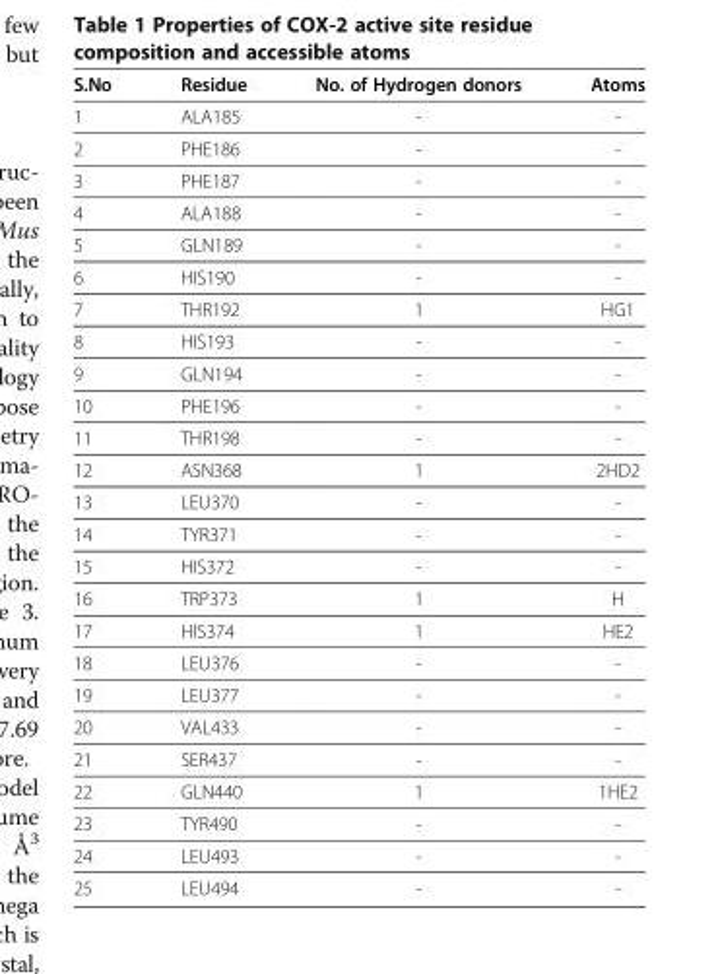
<table><thead><tr><td>S.No</td><td>Residue</td><td>No. of Hydrogen donors</td><td>Atoms</td></tr></thead><tbody><tr><td>1</td><td>ALA185</td><td>-</td><td>-</td></tr><tr><td>2</td><td>PHE186</td><td>-</td><td>-</td></tr><tr><td>3</td><td>PHE187</td><td>-</td><td>-</td></tr><tr><td>4</td><td>ALA188</td><td>-</td><td>-</td></tr><tr><td>5</td><td>GLN189</td><td>-</td><td>-</td></tr><tr><td>6</td><td>HIS190</td><td>-</td><td>-</td></tr><tr><td>7</td><td>THR192</td><td>1</td><td>HG1</td></tr><tr><td>8</td><td>HIS193</td><td>-</td><td>-</td></tr><tr><td>9</td><td>GLN194</td><td>-</td><td>-</td></tr><tr><td>10</td><td>PHE196</td><td>-</td><td>-</td></tr><tr><td>11</td><td>THR198</td><td>-</td><td>-</td></tr><tr><td>12</td><td>ASN368</td><td>1</td><td>2HD2</td></tr><tr><td>13</td><td>LEU370</td><td>-</td><td>-</td></tr><tr><td>14</td><td>TYR371</td><td>-</td><td>-</td></tr><tr><td>15</td><td>HIS372</td><td>-</td><td>-</td></tr><tr><td>16</td><td>TRP373</td><td>1</td><td>H</td></tr><tr><td>17</td><td>HIS374</td><td>1</td><td>HE2</td></tr><tr><td>18</td><td>LEU376</td><td>-</td><td>-</td></tr><tr><td>19</td><td>LEU377</td><td>-</td><td>-</td></tr><tr><td>20</td><td>VAL433</td><td>-</td><td>-</td></tr><tr><td>21</td><td>SER437</td><td>-</td><td>-</td></tr><tr><td>22</td><td>GLN440</td><td>1</td><td>1HE2</td></tr><tr><td>23</td><td>TYR490</td><td>-</td><td>-</td></tr><tr><td>24</td><td>LEU493</td><td>-</td><td>-</td></tr><tr><td>25</td><td>LEU494</td><td>-</td><td>-</td></tr></tbody></table>